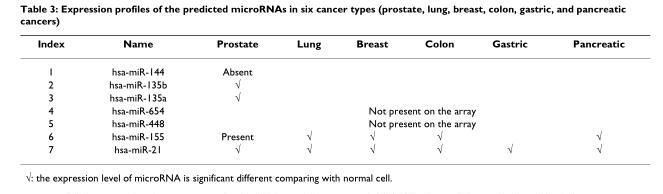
<table><thead><tr><td>Index</td><td>Name</td><td>Prostate</td><td>Lung</td><td>Breast</td><td>Colon</td><td>Gastric</td><td>Pancreatic</td></tr></thead><tbody><tr><td>1</td><td>hsa-miR-144</td><td>Absent</td><td></td><td></td><td></td><td></td><td></td></tr><tr><td>2</td><td>hsa-miR-135b</td><td>√</td><td></td><td></td><td></td><td></td><td></td></tr><tr><td>3</td><td>hsa-miR-135a</td><td>√</td><td></td><td></td><td></td><td></td><td></td></tr><tr><td>4</td><td>hsa-miR-654</td><td colspan="6">Not present on the array</td></tr><tr><td>5</td><td>hsa-miR-448</td><td colspan="6">Not present on the array</td></tr><tr><td>6</td><td>hsa-miR-155</td><td>Present</td><td>√</td><td>√</td><td>√</td><td></td><td>√</td></tr><tr><td>7</td><td>hsa-miR-21</td><td>√</td><td>√</td><td>√</td><td>√</td><td>√</td><td>√</td></tr></tbody></table>